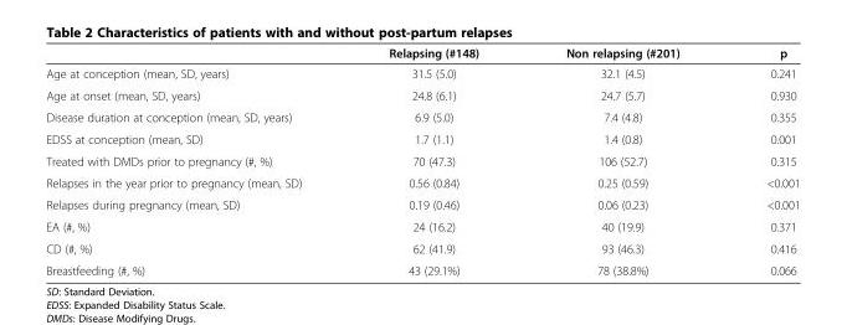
<table><thead><tr><td></td><td>Relapsing (#148)</td><td>Non relapsing (#201)</td><td>p</td></tr></thead><tbody><tr><td>Age at conception (mean, SD, years)</td><td>31.5 (5.0)</td><td>32.1 (4.5)</td><td>0.241</td></tr><tr><td>Age at onset (mean, SD, years)</td><td>24.8 (6.1)</td><td>24.7 (5.7)</td><td>0.930</td></tr><tr><td>Disease duration at conception (mean, SD, years)</td><td>6.9 (5.0)</td><td>7.4 (4.8)</td><td>0.355</td></tr><tr><td>EDSS at conception (mean, SD)</td><td>1.7 (1.1)</td><td>1.4 (0.8)</td><td>0.001</td></tr><tr><td>Treated with DMDs prior to pregnancy (#, %)</td><td>70 (47.3)</td><td>106 (52.7)</td><td>0.315</td></tr><tr><td>Relapses in the year prior to pregnancy (mean, SD)</td><td>0.56 (0.84)</td><td>0.25 (0.59)</td><td>&lt;0.001</td></tr><tr><td>Relapses during pregnancy (mean, SD)</td><td>0.19 (0.46)</td><td>0.06 (0.23)</td><td>&lt;0.001</td></tr><tr><td>EA (#, %)</td><td>24 (16.2)</td><td>40 (19.9)</td><td>0.371</td></tr><tr><td>CD (#, %)</td><td>62 (41.9)</td><td>93 (46.3)</td><td>0.416</td></tr><tr><td>Breastfeeding (#, %)</td><td>43 (29.1%)</td><td>78 (38.8%)</td><td>0.066</td></tr></tbody></table>